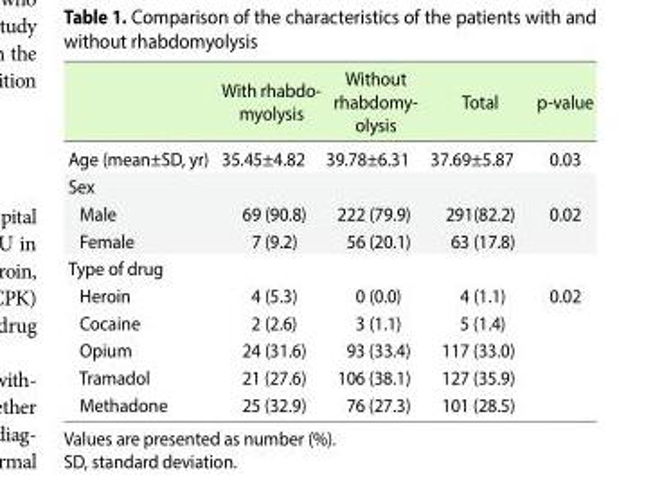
<table><thead><tr><td></td><td>With rhabdo- myolysis</td><td>Without rhabdomy- olysis</td><td>Total</td><td>p-value</td></tr></thead><tbody><tr><td>Age (mean±SD, yr)</td><td>35.45±4.82</td><td>39.78±6.31</td><td>37.69±5.87</td><td>0.03</td></tr><tr><td colspan="5">Sex</td></tr><tr><td>Male</td><td>69 (90.8)</td><td>222 (79.9)</td><td>291(82.2)</td><td>0.02</td></tr><tr><td>Female</td><td>7 (9.2)</td><td>56 (20.1)</td><td>63 (17.8)</td><td></td></tr><tr><td colspan="5">Type of drug</td></tr><tr><td>Heroin</td><td>4 (5.3)</td><td>0 (0.0)</td><td>4 (1.1)</td><td>0.02</td></tr><tr><td>Cocaine</td><td>2 (2.6)</td><td>3 (1.1)</td><td>5 (1.4)</td><td></td></tr><tr><td>Opium</td><td>24 (31.6)</td><td>93 (33.4)</td><td>117 (33.0)</td><td></td></tr><tr><td>Tramadol</td><td>21 (27.6)</td><td>106 (38.1)</td><td>127 (35.9)</td><td></td></tr><tr><td>Methadone</td><td>25 (32.9)</td><td>76 (27.3)</td><td>101 (28.5)</td><td></td></tr></tbody></table>